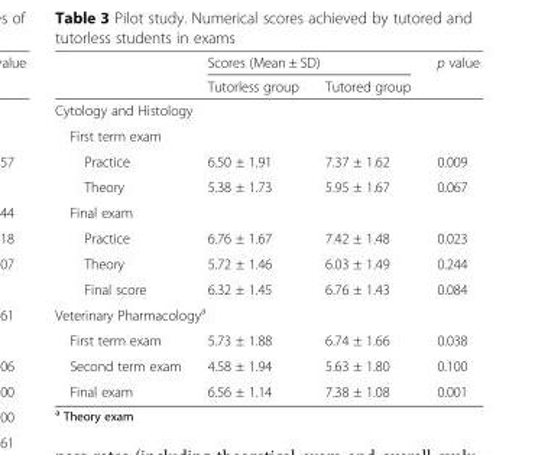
<table><thead><tr><td rowspan="2"></td><td colspan="2">Scores (Mean ± SD)</td><td rowspan="2">p value</td></tr><tr><td>Tutorless group</td><td>Tutored group</td></tr></thead><tbody><tr><td colspan="4">Cytology and Histology</td></tr><tr><td colspan="4">First term exam</td></tr><tr><td>Practice</td><td>6.50 ± 1.91</td><td>7.37 ± 1.62</td><td>0.009</td></tr><tr><td>Theory</td><td>5.38 ± 1.73</td><td>5.95 ± 1.67</td><td>0.067</td></tr><tr><td colspan="4">Final exam</td></tr><tr><td>Practice</td><td>6.76 ± 1.67</td><td>7.42 ± 1.48</td><td>0.023</td></tr><tr><td>Theory</td><td>5.72 ± 1.46</td><td>6.03 ± 1.49</td><td>0.244</td></tr><tr><td>Final score</td><td>6.32 ± 1.45</td><td>6.76 ± 1.43</td><td>0.084</td></tr><tr><td colspan="4">Veterinary Pharmacology<sup>a</sup></td></tr><tr><td>First term exam</td><td>5.73 ± 1.88</td><td>6.74 ± 1.66</td><td>0.038</td></tr><tr><td>Second term exam</td><td>4.58 ± 1.94</td><td>5.63 ± 1.80</td><td>0.100</td></tr><tr><td>Final exam</td><td>6.56 ± 1.14</td><td>7.38 ± 1.08</td><td>0.001</td></tr></tbody></table>